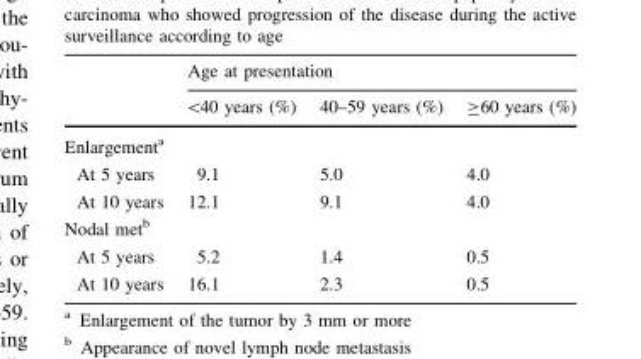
<table><thead><tr><td rowspan="2"></td><td colspan="3">Age at presentation</td></tr><tr><td>&lt;40 years (%)</td><td>40–59 years (%)</td><td>≥60 years (%)</td></tr></thead><tbody><tr><td colspan="4">Enlargement<sup>a</sup></td></tr><tr><td>At 5 years</td><td>9.1</td><td>5.0</td><td>4.0</td></tr><tr><td>At 10 years</td><td>12.1</td><td>9.1</td><td>4.0</td></tr><tr><td colspan="4">Nodal met<sup>b</sup></td></tr><tr><td>At 5 years</td><td>5.2</td><td>1.4</td><td>0.5</td></tr><tr><td>At 10 years</td><td>16.1</td><td>2.3</td><td>0.5</td></tr></tbody></table>